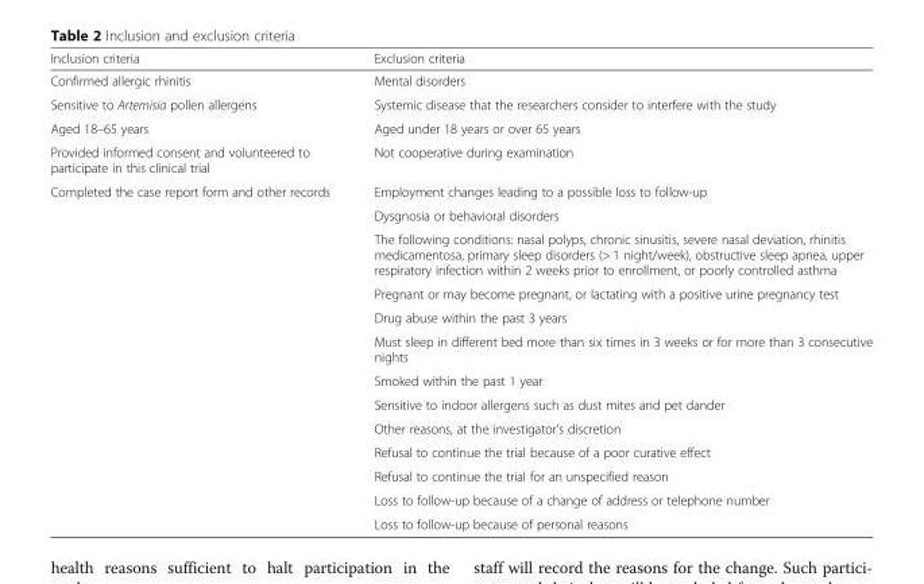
<table><thead><tr><td>Inclusion criteria</td><td>Exclusion criteria</td></tr></thead><tbody><tr><td>Confirmed allergic rhinitis</td><td>Mental disorders</td></tr><tr><td>Sensitive to Artemisia pollen allergens</td><td>Systemic disease that the researchers consider to interfere with the study</td></tr><tr><td>Aged 18–65 years</td><td>Aged under 18 years or over 65 years</td></tr><tr><td>Provided informed consent and volunteered to participate in this clinical trial</td><td>Not cooperative during examination</td></tr><tr><td rowspan="13">Completed the case report form and other records</td><td>Employment changes leading to a possible loss to follow-up</td></tr><tr><td>Dysgnosia or behavioral disorders</td></tr><tr><td>The following conditions: nasal polyps, chronic sinusitis, severe nasal deviation, rhinitis medicamentosa, primary sleep disorders (&gt; 1 night/week), obstructive sleep apnea, upper respiratory infection within 2 weeks prior to enrollment, or poorly controlled asthma</td></tr><tr><td>Pregnant or may become pregnant, or lactating with a positive urine pregnancy test</td></tr><tr><td>Drug abuse within the past 3 years</td></tr><tr><td>Must sleep in different bed more than six times in 3 weeks or for more than 3 consecutive nights</td></tr><tr><td>Smoked within the past 1 year</td></tr><tr><td>Sensitive to indoor allergens such as dust mites and pet dander</td></tr><tr><td>Other reasons, at the investigator’s discretion</td></tr><tr><td>Refusal to continue the trial because of a poor curative effect</td></tr><tr><td>Refusal to continue the trial for an unspecified reason</td></tr><tr><td>Loss to follow-up because of a change of address or telephone number</td></tr><tr><td>Loss to follow-up because of personal reasons</td></tr></tbody></table>